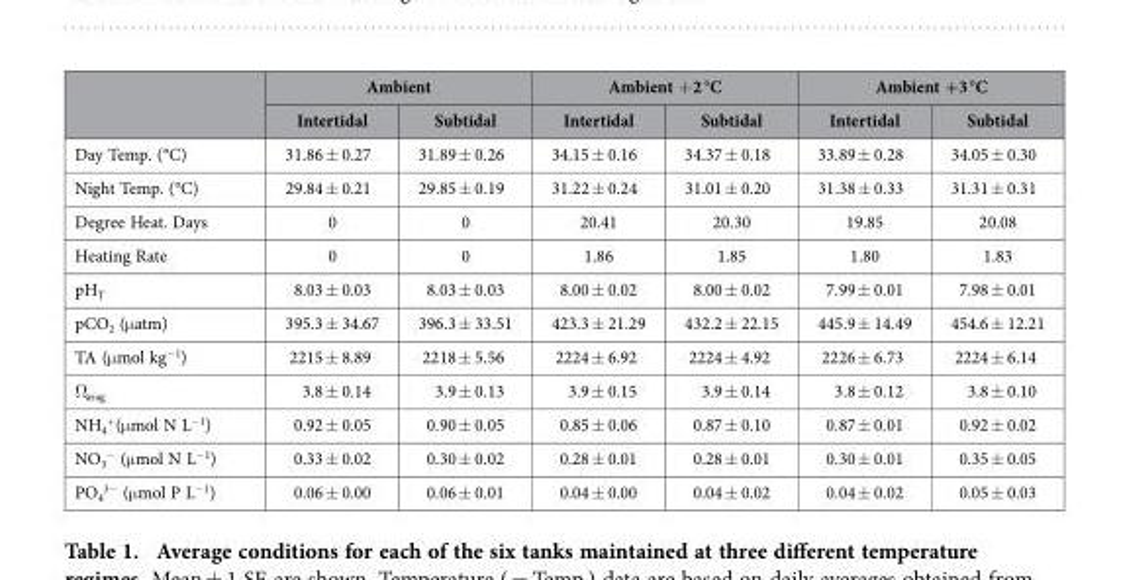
<table><thead><tr><td rowspan="2"></td><td colspan="2">Ambient</td><td colspan="2">Ambient + 2 °C</td><td colspan="2">Ambient +3 °C</td></tr><tr><td>Intertidal</td><td>Subtidal</td><td>Intertidal</td><td>Subtidal</td><td>Intertidal</td><td>Subtidal</td></tr></thead><tbody><tr><td>Day Temp. (°C)</td><td>31.86 ± 0.27</td><td>31.89 ± 0.26</td><td>34.15 ± 0.16</td><td>34.37 ± 0.18</td><td>33.89 ± 0.28</td><td>34.05 ± 0.30</td></tr><tr><td>Night Temp. (°C)</td><td>29.84 ± 0.21</td><td>29.85 ± 0.19</td><td>31.22 ± 0.24</td><td>31.01 ± 0.20</td><td>31.38 ± 0.33</td><td>31.31 ± 0.31</td></tr><tr><td>Degree Heat. Days</td><td>0</td><td>0</td><td>20.41</td><td>20.30</td><td>19.85</td><td>20.08</td></tr><tr><td>Heating Rate</td><td>0</td><td>0</td><td>1.86</td><td>1.85</td><td>1.80</td><td>1.83</td></tr><tr><td>pH<sub>T</sub></td><td>8.03 ± 0.03</td><td>8.03 ± 0.03</td><td>8.00 ± 0.02</td><td>8.00 ± 0.02</td><td>7.99 ± 0.01</td><td>7.98 ± 0.01</td></tr><tr><td>pCO<sub>2</sub> (μatm)</td><td>395.3 ± 34.67</td><td>396.3 ± 33.51</td><td>423.3 ± 21.29</td><td>432.2 ± 22.15</td><td>445.9 ± 14.49</td><td>454.6 ± 12.21</td></tr><tr><td>TA (μmol kg<sup>−1</sup>)</td><td>2215 ± 8.89</td><td>2218 ± 5.56</td><td>2224 ± 6.92</td><td>2224 ± 4.92</td><td>2226 ± 6.73</td><td>2224 ± 6.14</td></tr><tr><td>Ω<sub>arag</sub></td><td>3.8 ± 0.14</td><td>3.9 ± 0.13</td><td>3.9 ± 0.15</td><td>3.9 ± 0.14</td><td>3.8 ± 0.12</td><td>3.8 ± 0.10</td></tr><tr><td>NH<sub>4</sub> <sup>+</sup>(μmol N L<sup>−1</sup>)</td><td>0.92 ± 0.05</td><td>0.90 ± 0.05</td><td>0.85 ± 0.06</td><td>0.87 ± 0.10</td><td>0.87 ± 0.01</td><td>0.92 ± 0.02</td></tr><tr><td>NO<sub>3</sub> <sup>−</sup> (μmol N L<sup>−1</sup>)</td><td>0.33 ± 0.02</td><td>0.30 ± 0.02</td><td>0.28 ± 0.01</td><td>0.28 ± 0.01</td><td>0.30 ± 0.01</td><td>0.35 ± 0.05</td></tr><tr><td>PO<sub>4</sub> <sup>3−</sup> (μmol P L<sup>−1</sup>)</td><td>0.06 ± 0.00</td><td>0.06 ± 0.01</td><td>0.04 ± 0.00</td><td>0.04 ± 0.02</td><td>0.04 ± 0.02</td><td>0.05 ± 0.03</td></tr></tbody></table>